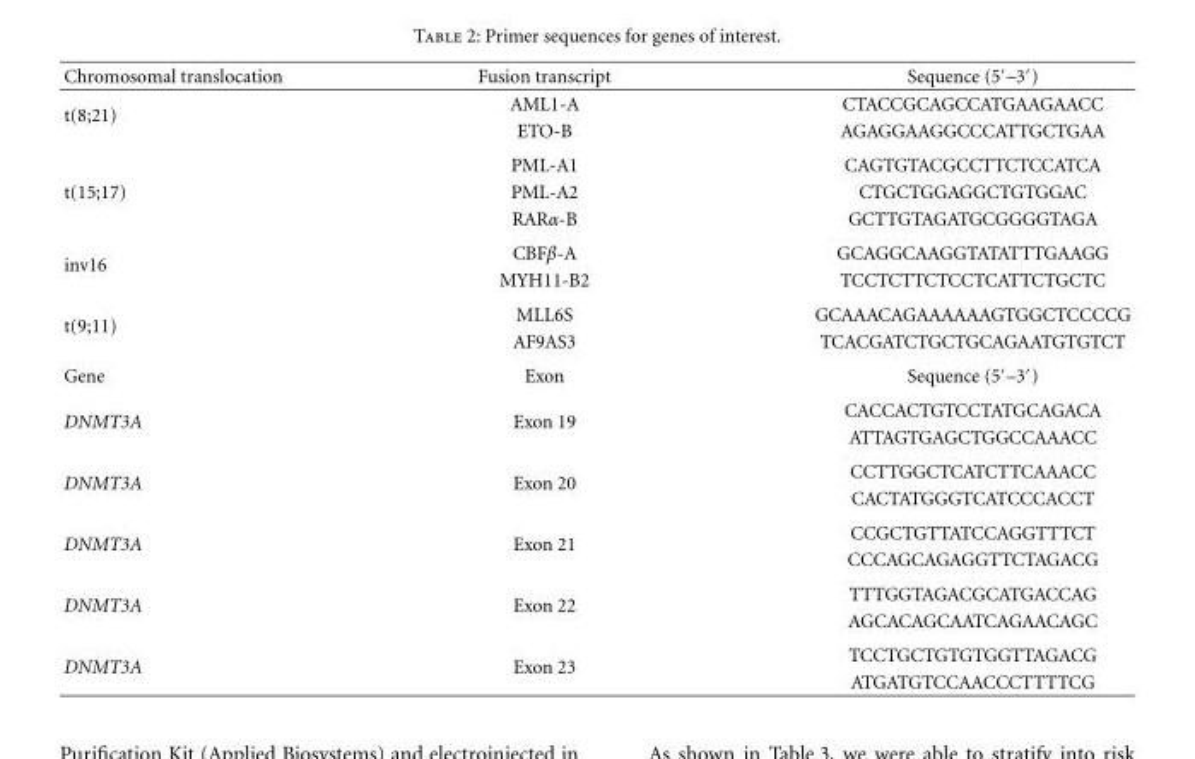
<table><thead><tr><td>Chromosomal translocation</td><td>Fusion transcript</td><td>Sequence (5′–3′)</td></tr></thead><tbody><tr><td rowspan="3">t(8;21)</td><td>AML1-A</td><td>CTACCGCAGCCATGAAGAACC</td></tr><tr><td>ETO-B</td><td>AGAGGAAGGCCCATTGCTGAA</td></tr><tr><td>PML-A1</td><td>CAGTGTACGCCTTCTCCATCA</td></tr><tr><td rowspan="2">t(15;17)</td><td>PML-A2</td><td>CTGCTGGAGGCTGTGGAC</td></tr><tr><td>RARα-B</td><td>GCTTGTAGATGCGGGGTAGA</td></tr><tr><td rowspan="2">inv16</td><td>CBFβ-A</td><td>GCAGGCAAGGTATATTTGAAGG</td></tr><tr><td>MYH11-B2</td><td>TCCTCTTCTCCTCATTCTGCTC</td></tr><tr><td rowspan="2">t(9;11)</td><td>MLL6S</td><td>GCAAACAGAAAAAAGTGGCTCCCCG</td></tr><tr><td>AF9AS3</td><td>TCACGATCTGCTGCAGAATGTGTCT</td></tr><tr><td>Gene</td><td>Exon</td><td>Sequence (5′–3′)</td></tr><tr><td rowspan="2">DNMT3A</td><td rowspan="2">Exon 19</td><td>CACCACTGTCCTATGCAGACA</td></tr><tr><td>ATTAGTGAGCTGGCCAAACC</td></tr><tr><td rowspan="2">DNMT3A</td><td rowspan="2">Exon 20</td><td>CCTTGGCTCATCTTCAAACC</td></tr><tr><td>CACTATGGGTCATCCCACCT</td></tr><tr><td rowspan="2">DNMT3A</td><td rowspan="2">Exon 21</td><td>CCGCTGTTATCCAGGTTTCT</td></tr><tr><td>CCCAGCAGAGGTTCTAGACG</td></tr><tr><td rowspan="2">DNMT3A</td><td rowspan="2">Exon 22</td><td>TTTGGTAGACGCATGACCAG</td></tr><tr><td>AGCACAGCAATCAGAACAGC</td></tr><tr><td rowspan="2">DNMT3A</td><td rowspan="2">Exon 23</td><td>TCCTGCTGTGTGGTTAGACG</td></tr><tr><td>ATGATGTCCAACCCTTTTCG</td></tr></tbody></table>